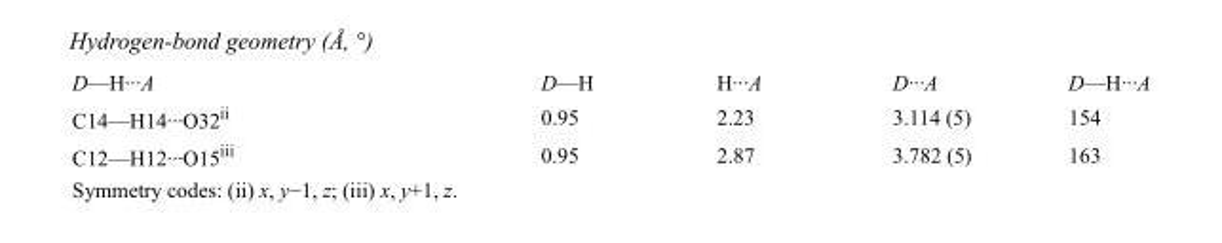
<table><tbody><tr><td>D—H···A</td><td>D—H</td><td>H···A</td><td>D···A</td><td>D—H···A</td></tr><tr><td>C14—H14···O32<sup>ii</sup></td><td>0.95</td><td>2.23</td><td>3.114 (5)</td><td>154</td></tr><tr><td>C12—H12···O15<sup>iii</sup></td><td>0.95</td><td>2.87</td><td>3.782 (5)</td><td>163</td></tr></tbody></table>